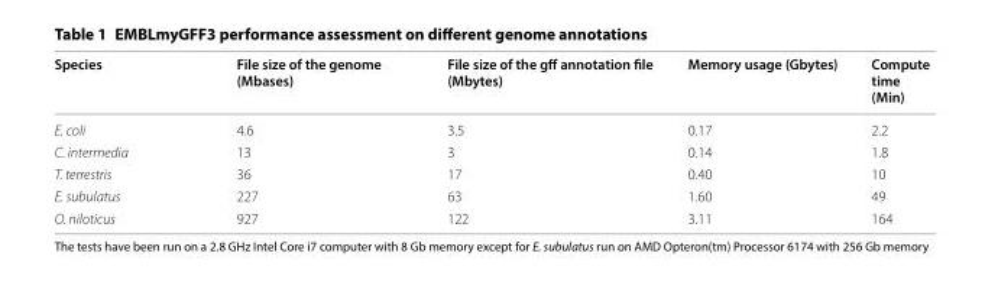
<table><thead><tr><td>Species</td><td>File size of the genome (Mbases)</td><td>File size of the gff annotation file (Mbytes)</td><td>Memory usage (Gbytes)</td><td>Compute time (Min)</td></tr></thead><tbody><tr><td>E. coli</td><td>4.6</td><td>3.5</td><td>0.17</td><td>2.2</td></tr><tr><td>C. intermedia</td><td>13</td><td>3</td><td>0.14</td><td>1.8</td></tr><tr><td>T. terrestris</td><td>36</td><td>17</td><td>0.40</td><td>10</td></tr><tr><td>E. subulatus</td><td>227</td><td>63</td><td>1.60</td><td>49</td></tr><tr><td>O. niloticus</td><td>927</td><td>122</td><td>3.11</td><td>164</td></tr></tbody></table>